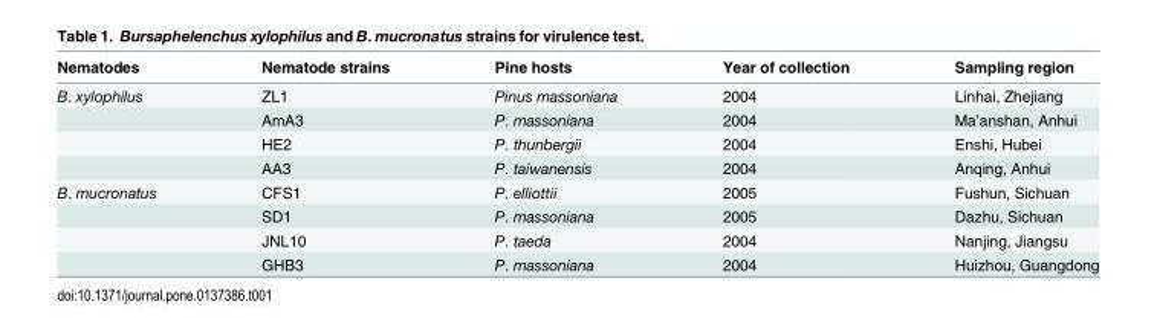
<table><thead><tr><td>Nematodes</td><td>Nematode strains</td><td>Pine hosts</td><td>Year of collection</td><td>Sampling region</td></tr></thead><tbody><tr><td rowspan="4">B. xylophilus</td><td>ZL1</td><td>Pinus massoniana</td><td>2004</td><td>Linhai, Zhejiang</td></tr><tr><td>AmA3</td><td>P. massoniana</td><td>2004</td><td>Ma’anshan, Anhui</td></tr><tr><td>HE2</td><td>P. thunbergii</td><td>2004</td><td>Enshi, Hubei</td></tr><tr><td>AA3</td><td>P. taiwanensis</td><td>2004</td><td>Anqing, Anhui</td></tr><tr><td rowspan="4">B. mucronatus</td><td>CFS1</td><td>P. elliottii</td><td>2005</td><td>Fushun, Sichuan</td></tr><tr><td>SD1</td><td>P. massoniana</td><td>2005</td><td>Dazhu, Sichuan</td></tr><tr><td>JNL10</td><td>P. taeda</td><td>2004</td><td>Nanjing, Jiangsu</td></tr><tr><td>GHB3</td><td>P. massoniana</td><td>2004</td><td>Huizhou, Guangdong</td></tr></tbody></table>